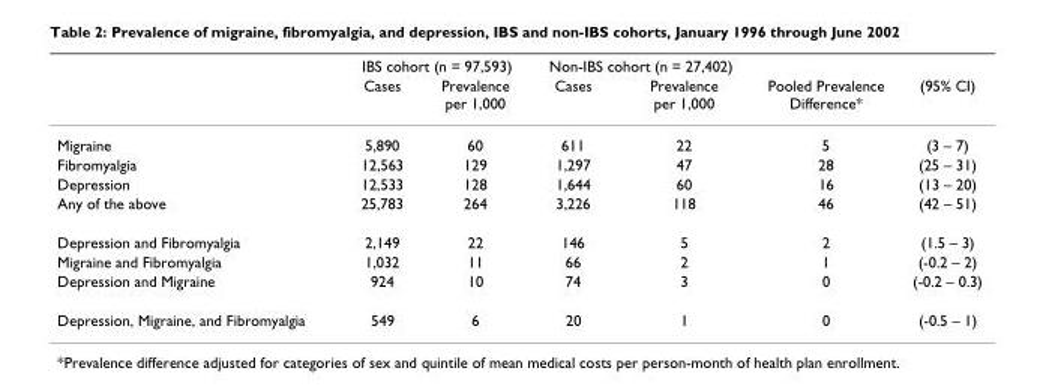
<table><thead><tr><td rowspan="2"></td><td colspan="2">IBS cohort (n = 97,593)</td><td colspan="2">Non-IBS cohort (n = 27,402)</td><td rowspan="2">Pooled Prevalence Difference*</td><td rowspan="2">(95% CI)</td></tr><tr><td>Cases</td><td>Prevalence per 1,000</td><td>Cases</td><td>Prevalence per 1,000</td></tr></thead><tbody><tr><td>Migraine</td><td>5,890</td><td>60</td><td>611</td><td>22</td><td>5</td><td>(3 – 7)</td></tr><tr><td>Fibromyalgia</td><td>12,563</td><td>129</td><td>1,297</td><td>47</td><td>28</td><td>(25 – 31)</td></tr><tr><td>Depression</td><td>12,533</td><td>128</td><td>1,644</td><td>60</td><td>16</td><td>(13 – 20)</td></tr><tr><td>Any of the above</td><td>25,783</td><td>264</td><td>3,226</td><td>118</td><td>46</td><td>(42 – 51)</td></tr><tr><td>Depression and Fibromyalgia</td><td>2,149</td><td>22</td><td>146</td><td>5</td><td>2</td><td>(1.5 – 3)</td></tr><tr><td>Migraine and Fibromyalgia</td><td>1,032</td><td>11</td><td>66</td><td>2</td><td>1</td><td>(-0.2 – 2)</td></tr><tr><td>Depression and Migraine</td><td>924</td><td>10</td><td>74</td><td>3</td><td>0</td><td>(-0.2 – 0.3)</td></tr><tr><td>Depression, Migraine, and Fibromyalgia</td><td>549</td><td>6</td><td>20</td><td>1</td><td>0</td><td>(-0.5 – 1)</td></tr></tbody></table>